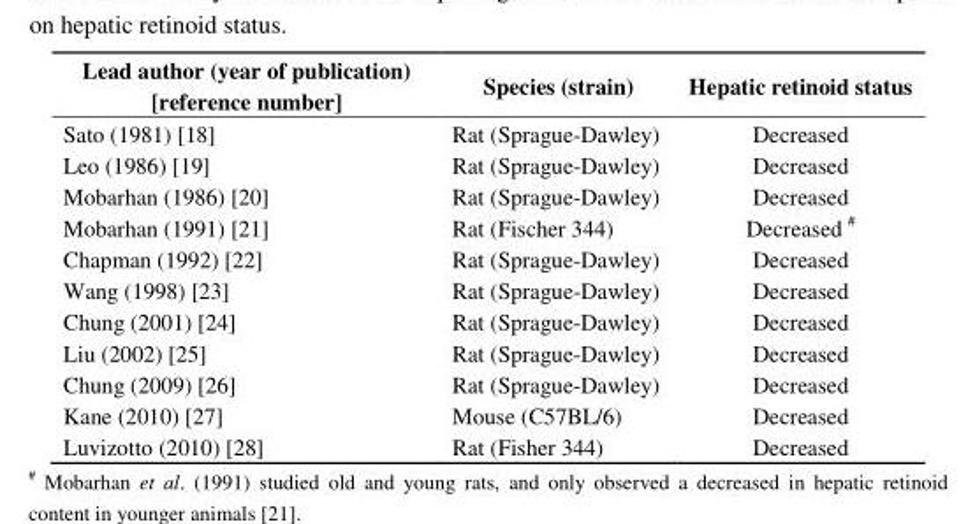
<table><thead><tr><td>Lead author (year of publication) [reference number]</td><td>Species (strain)</td><td>Hepatic retinoid status</td></tr></thead><tbody><tr><td>Sato (1981) [18]</td><td>Rat (Sprague-Dawley)</td><td>Decreased</td></tr><tr><td>Leo (1986) [19]</td><td>Rat (Sprague-Dawley)</td><td>Decreased</td></tr><tr><td>Mobarhan (1986) [20]</td><td>Rat (Sprague-Dawley)</td><td>Decreased</td></tr><tr><td>Mobarhan (1991) [21]</td><td>Rat (Fischer 344)</td><td>Decreased <sup>#</sup></td></tr><tr><td>Chapman (1992) [22]</td><td>Rat (Sprague-Dawley)</td><td>Decreased</td></tr><tr><td>Wang (1998) [23]</td><td>Rat (Sprague-Dawley)</td><td>Decreased</td></tr><tr><td>Chung (2001) [24]</td><td>Rat (Sprague-Dawley)</td><td>Decreased</td></tr><tr><td>Liu (2002) [25]</td><td>Rat (Sprague-Dawley)</td><td>Decreased</td></tr><tr><td>Chung (2009) [26]</td><td>Rat (Sprague-Dawley)</td><td>Decreased</td></tr><tr><td>Kane (2010) [27]</td><td>Mouse (C57BL/6)</td><td>Decreased</td></tr><tr><td>Luvizotto (2010) [28]</td><td>Rat (Fisher 344)</td><td>Decreased</td></tr></tbody></table>